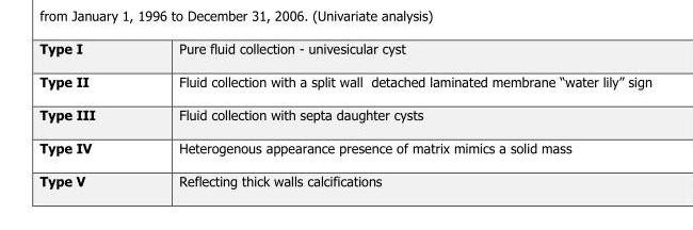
<table><tbody><tr><td>Type I</td><td>Pure fluid collection - univesicular cyst</td></tr><tr><td>Type II</td><td>Fluid collection with a split wall detached laminated membrane “water lily” sign</td></tr><tr><td>Type III</td><td>Fluid collection with septa daughter cysts</td></tr><tr><td>Type IV</td><td>Heterogenous appearance presence of matrix mimics a solid mass</td></tr><tr><td>Type V</td><td>Reflecting thick walls calcifications</td></tr></tbody></table>